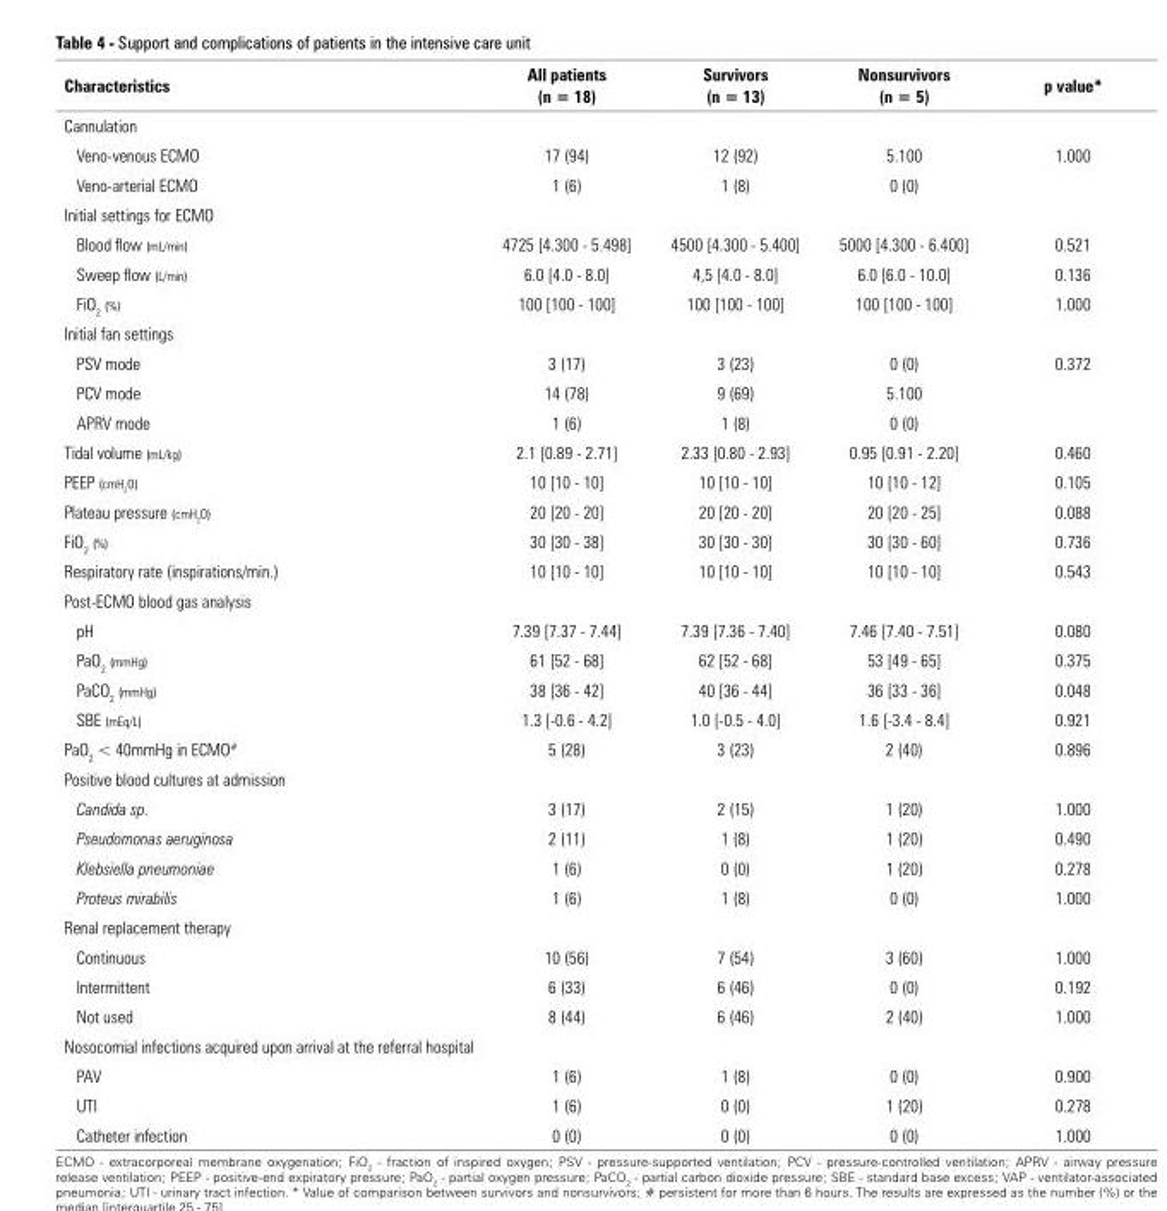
<table><thead><tr><td>Characteristics</td><td>All patients (n = 18)</td><td>Survivors (n = 13)</td><td>Nonsurvivors (n = 5)</td><td>p value*</td></tr></thead><tbody><tr><td colspan="5">Cannulation</td></tr><tr><td>Veno-venous ECMO</td><td>17 (94)</td><td>12 (92)</td><td>5.100</td><td>1.000</td></tr><tr><td>Veno-arterial ECMO</td><td>1 (6)</td><td>1 (8)</td><td>0 (0)</td><td></td></tr><tr><td colspan="5">Initial settings for ECMO</td></tr><tr><td>Blood flow (mL/min)</td><td>4725 [4.300 - 5.498]</td><td>4500 [4.300 - 5.400]</td><td>5000 [4.300 - 6.400]</td><td>0.521</td></tr><tr><td>Sweep flow (L/min)</td><td>6.0 [4.0 - 8.0]</td><td>4,5 [4.0 - 8.0]</td><td>6.0 [6.0 - 10.0]</td><td>0.136</td></tr><tr><td>FiO<sub>2</sub> (%)</td><td>100 [100 - 100]</td><td>100 [100 - 100]</td><td>100 [100 - 100]</td><td>1.000</td></tr><tr><td colspan="5">Initial fan settings</td></tr><tr><td>PSV mode</td><td>3 (17)</td><td>3 (23)</td><td>0 (0)</td><td>0.372</td></tr><tr><td>PCV mode</td><td>14 (78)</td><td>9 (69)</td><td>5.100</td><td></td></tr><tr><td>APRV mode</td><td>1 (6)</td><td>1 (8)</td><td>0 (0)</td><td></td></tr><tr><td>Tidal volume (mL/kg)</td><td>2.1 [0.89 - 2.71]</td><td>2.33 [0.80 - 2.93]</td><td>0.95 [0.91 - 2.20]</td><td>0.460</td></tr><tr><td>PEEP (cmH2O)</td><td>10 [10 - 10]</td><td>10 [10 - 10]</td><td>10 [10 - 12]</td><td>0.105</td></tr><tr><td>Plateau pressure (cmH<sub>2</sub>O)</td><td>20 [20 - 20]</td><td>20 [20 - 20]</td><td>20 [20 - 25]</td><td>0.088</td></tr><tr><td>FiO<sub>2</sub> (%)</td><td>30 [30 - 38]</td><td>30 [30 - 30]</td><td>30 [30 - 60]</td><td>0.736</td></tr><tr><td>Respiratory rate (inspirations/min.)</td><td>10 [10 - 10]</td><td>10 [10 - 10]</td><td>10 [10 - 10]</td><td>0.543</td></tr><tr><td colspan="5">Post-ECMO blood gas analysis</td></tr><tr><td>pH</td><td>7.39 [7.37 - 7.44]</td><td>7.39 [7.36 - 7.40]</td><td>7.46 [7.40 - 7.51]</td><td>0.080</td></tr><tr><td>PaO<sub>2</sub> (mmHg)</td><td>61 [52 - 68]</td><td>62 [52 - 68]</td><td>53 [49 - 65]</td><td>0.375</td></tr><tr><td>PaCO<sub>2</sub> (mmHg)</td><td>38 [36 - 42]</td><td>40 [36 - 44]</td><td>36 [33 - 36]</td><td>0.048</td></tr><tr><td>SBE (mEq/L)</td><td>1.3 [-0.6 - 4.2]</td><td>1.0 [-0.5 - 4.0]</td><td>1.6 [-3.4 - 8.4]</td><td>0.921</td></tr><tr><td>PaO<sub>2</sub> &lt; 40mmHg in ECMO#</td><td>5 (28)</td><td>3 (23)</td><td>2 (40)</td><td>0.896</td></tr><tr><td colspan="5">Positive blood cultures at admission</td></tr><tr><td>Candida sp.</td><td>3 (17)</td><td>2 (15)</td><td>1 (20)</td><td>1.000</td></tr><tr><td>Pseudomonas aeruginosa</td><td>2 (11)</td><td>1 (8)</td><td>1 (20)</td><td>0.490</td></tr><tr><td>Klebsiella pneumoniae</td><td>1 (6)</td><td>0 (0)</td><td>1 (20)</td><td>0.278</td></tr><tr><td>Proteus mirabilis</td><td>1 (6)</td><td>1 (8)</td><td>0 (0)</td><td>1.000</td></tr><tr><td colspan="5">Renal replacement therapy</td></tr><tr><td>Continuous</td><td>10 (56)</td><td>7 (54)</td><td>3 (60)</td><td>1.000</td></tr><tr><td>Intermittent</td><td>6 (33)</td><td>6 (46)</td><td>0 (0)</td><td>0.192</td></tr><tr><td>Not used</td><td>8 (44)</td><td>6 (46)</td><td>2 (40)</td><td>1.000</td></tr><tr><td colspan="5">Nosocomial infections acquired upon arrival at the referral hospital</td></tr><tr><td>PAV</td><td>1 (6)</td><td>1 (8)</td><td>0 (0)</td><td>0.900</td></tr><tr><td>UTI</td><td>1 (6)</td><td>0 (0)</td><td>1 (20)</td><td>0.278</td></tr><tr><td>Catheter infection</td><td>0 (0)</td><td>0 (0)</td><td>0 (0)</td><td>1.000</td></tr></tbody></table>